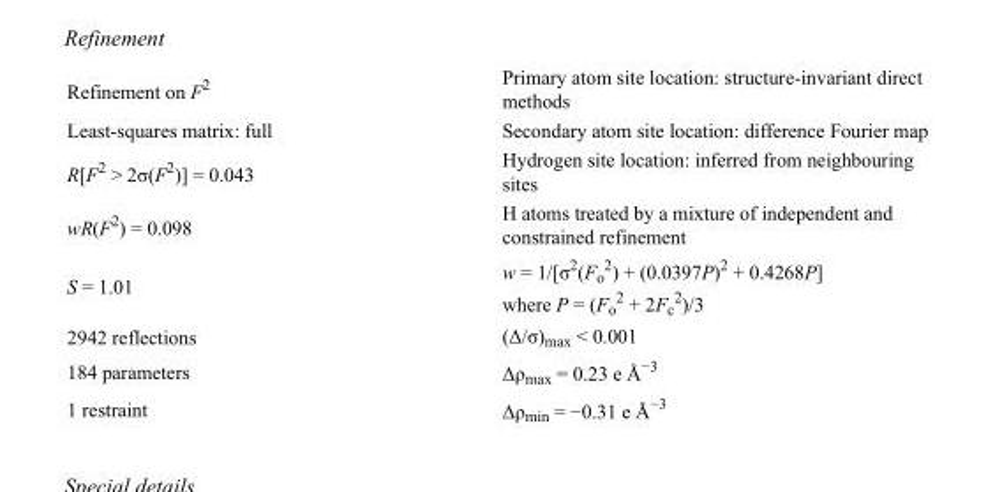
<table><tbody><tr><td>Refinement on F<sup>2</sup></td><td>Primary atom site location: structure-invariant direct methods</td></tr><tr><td>Least-squares matrix: full</td><td>Secondary atom site location: difference Fourier map</td></tr><tr><td>R[F<sup>2</sup> &gt; 2σ(F<sup>2</sup>)] = 0.043</td><td>Hydrogen site location: inferred from neighbouring sites</td></tr><tr><td>wR(F<sup>2</sup>) = 0.098</td><td>H atoms treated by a mixture of independent and constrained refinement</td></tr><tr><td>S = 1.01</td><td>w = 1/[σ<sup>2</sup>(F<sub>o</sub> <sup>2</sup>) + (0.0397P)<sup>2</sup> + 0.4268P] where P = (F<sub>o</sub> <sup>2</sup> + 2F<sub>c</sub> <sup>2</sup>)/3</td></tr><tr><td>2942 reflections</td><td>(Δ/σ)<sub>max</sub> &lt; 0.001</td></tr><tr><td>184 parameters</td><td>Δρ<sub>max</sub> = 0.23 e Å<sup>−3</sup></td></tr><tr><td>1 restraint</td><td>Δρ<sub>min</sub> = −0.31 e Å<sup>−3</sup></td></tr></tbody></table>